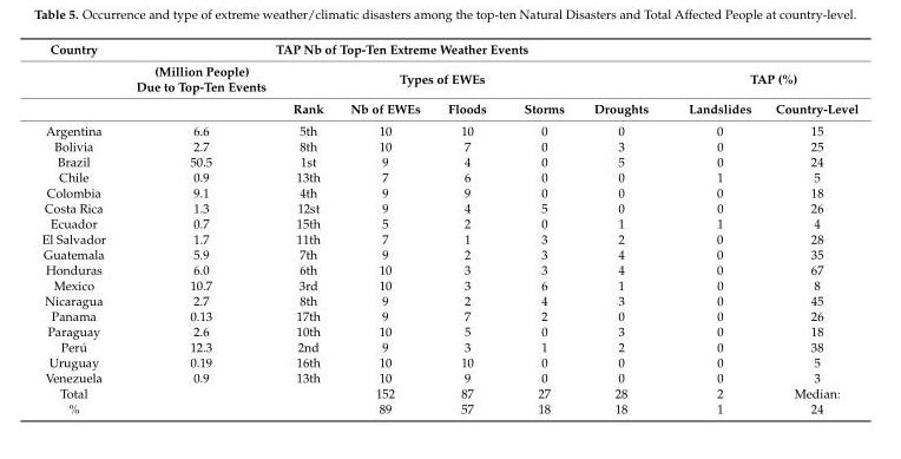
<table><thead><tr><td rowspan="3">Country</td><td colspan="6">TAP Nb of Top-Ten Extreme Weather Events</td><td></td><td></td></tr><tr><td rowspan="2">(Million People) Due to Top-Ten Events</td><td colspan="5">Types of EWEs</td><td colspan="2">TAP (%)</td></tr><tr><td>Rank</td><td>Nb of EWEs</td><td>Floods</td><td>Storms</td><td>Droughts</td><td>Landslides</td><td>Country-Level</td></tr></thead><tbody><tr><td>Argentina</td><td>6.6</td><td>5th</td><td>10</td><td>10</td><td>0</td><td>0</td><td>0</td><td>15</td></tr><tr><td>Bolivia</td><td>2.7</td><td>8th</td><td>10</td><td>7</td><td>0</td><td>3</td><td>0</td><td>25</td></tr><tr><td>Brazil</td><td>50.5</td><td>1st</td><td>9</td><td>4</td><td>0</td><td>5</td><td>0</td><td>24</td></tr><tr><td>Chile</td><td>0.9</td><td>13th</td><td>7</td><td>6</td><td>0</td><td>0</td><td>1</td><td>5</td></tr><tr><td>Colombia</td><td>9.1</td><td>4th</td><td>9</td><td>9</td><td>0</td><td>0</td><td>0</td><td>18</td></tr><tr><td>Costa Rica</td><td>1.3</td><td>12st</td><td>9</td><td>4</td><td>5</td><td>0</td><td>0</td><td>26</td></tr><tr><td>Ecuador</td><td>0.7</td><td>15th</td><td>5</td><td>2</td><td>0</td><td>1</td><td>1</td><td>4</td></tr><tr><td>El Salvador</td><td>1.7</td><td>11th</td><td>7</td><td>1</td><td>3</td><td>2</td><td>0</td><td>28</td></tr><tr><td>Guatemala</td><td>5.9</td><td>7th</td><td>9</td><td>2</td><td>3</td><td>4</td><td>0</td><td>35</td></tr><tr><td>Honduras</td><td>6.0</td><td>6th</td><td>10</td><td>3</td><td>3</td><td>4</td><td>0</td><td>67</td></tr><tr><td>Mexico</td><td>10.7</td><td>3rd</td><td>10</td><td>3</td><td>6</td><td>1</td><td>0</td><td>8</td></tr><tr><td>Nicaragua</td><td>2.7</td><td>8th</td><td>9</td><td>2</td><td>4</td><td>3</td><td>0</td><td>45</td></tr><tr><td>Panama</td><td>0.13</td><td>17th</td><td>9</td><td>7</td><td>2</td><td>0</td><td>0</td><td>26</td></tr><tr><td>Paraguay</td><td>2.6</td><td>10th</td><td>10</td><td>5</td><td>0</td><td>3</td><td>0</td><td>18</td></tr><tr><td>Perú</td><td>12.3</td><td>2nd</td><td>9</td><td>3</td><td>1</td><td>2</td><td>0</td><td>38</td></tr><tr><td>Uruguay</td><td>0.19</td><td>16th</td><td>10</td><td>10</td><td>0</td><td>0</td><td>0</td><td>5</td></tr><tr><td>Venezuela</td><td>0.9</td><td>13th</td><td>10</td><td>9</td><td>0</td><td>0</td><td>0</td><td>3</td></tr><tr><td>Total</td><td></td><td></td><td>152</td><td>87</td><td>27</td><td>28</td><td>2</td><td>Median:</td></tr><tr><td>%</td><td></td><td></td><td>89</td><td>57</td><td>18</td><td>18</td><td>1</td><td>24</td></tr></tbody></table>